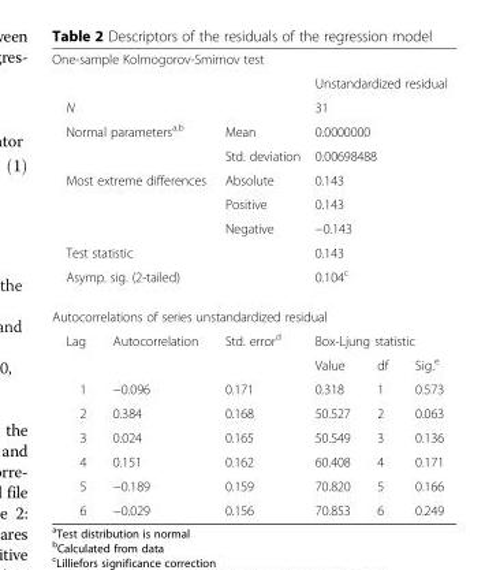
<table><tbody><tr><td colspan="6">One-sample Kolmogorov-Smirnov test</td></tr><tr><td colspan="3"></td><td colspan="3">Unstandardized residual</td></tr><tr><td colspan="3">N</td><td colspan="3">31</td></tr><tr><td rowspan="2" colspan="2">Normal parameters<sup>a,b</sup></td><td>Mean</td><td colspan="3">0.0000000</td></tr><tr><td>Std. deviation</td><td colspan="3">0.00698488</td></tr><tr><td rowspan="3" colspan="2">Most extreme differences</td><td>Absolute</td><td colspan="3">0.143</td></tr><tr><td>Positive</td><td colspan="3">0.143</td></tr><tr><td>Negative</td><td colspan="3">−0.143</td></tr><tr><td colspan="3">Test statistic</td><td colspan="3">0.143</td></tr><tr><td colspan="3">Asymp. sig. (2-tailed)</td><td colspan="3">0.104<sup>c</sup></td></tr><tr><td colspan="6">Autocorrelations of series unstandardized residual</td></tr><tr><td rowspan="2">Lag</td><td rowspan="2">Autocorrelation</td><td rowspan="2">Std. error<sup>d</sup></td><td colspan="3">Box-Ljung statistic</td></tr><tr><td>Value</td><td>df</td><td>Sig.<sup>e</sup></td></tr><tr><td>1</td><td>−0.096</td><td>0.171</td><td>0.318</td><td>1</td><td>0.573</td></tr><tr><td>2</td><td>0.384</td><td>0.168</td><td>50.527</td><td>2</td><td>0.063</td></tr><tr><td>3</td><td>0.024</td><td>0.165</td><td>50.549</td><td>3</td><td>0.136</td></tr><tr><td>4</td><td>0.151</td><td>0.162</td><td>60.408</td><td>4</td><td>0.171</td></tr><tr><td>5</td><td>−0.189</td><td>0.159</td><td>70.820</td><td>5</td><td>0.166</td></tr><tr><td>6</td><td>−0.029</td><td>0.156</td><td>70.853</td><td>6</td><td>0.249</td></tr></tbody></table>